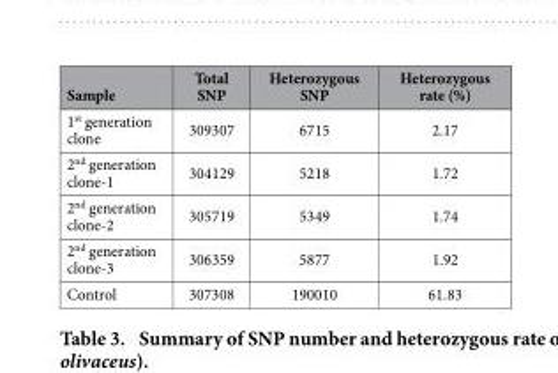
<table><thead><tr><td>Sample</td><td>Total SNP</td><td>Heterozygous SNP</td><td>Heterozygous rate (%)</td></tr></thead><tbody><tr><td>1<sup>st</sup> generation clone</td><td>309307</td><td>6715</td><td>2.17</td></tr><tr><td>2<sup>nd</sup> generation clone-1</td><td>304129</td><td>5218</td><td>1.72</td></tr><tr><td>2<sup>nd</sup> generation clone-2</td><td>305719</td><td>5349</td><td>1.74</td></tr><tr><td>2<sup>nd</sup> generation clone-3</td><td>306359</td><td>5877</td><td>1.92</td></tr><tr><td>Control</td><td>307308</td><td>190010</td><td>61.83</td></tr></tbody></table>